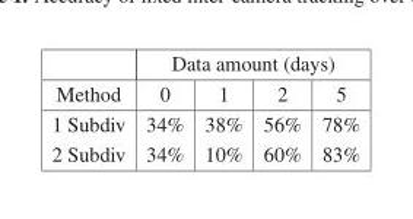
<table><thead><tr><td rowspan="2">Method</td><td colspan="4">Data amount (days)</td></tr><tr><td>0</td><td>1</td><td>2</td><td>5</td></tr></thead><tbody><tr><td>1 Subdiv</td><td>34%</td><td>38%</td><td>56%</td><td>78%</td></tr><tr><td>2 Subdiv</td><td>34%</td><td>10%</td><td>60%</td><td>83%</td></tr></tbody></table>